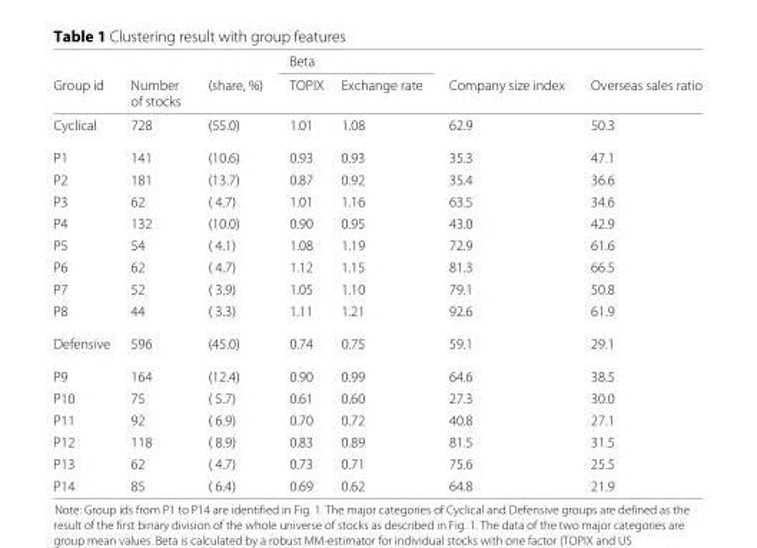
<table><thead><tr><td rowspan="2">Group id</td><td rowspan="2">Number of stocks</td><td rowspan="2">(share, %)</td><td colspan="2">Beta</td><td rowspan="2">Company size index</td><td rowspan="2">Overseas sales ratio</td></tr><tr><td>TOPIX</td><td>Exchange rate</td></tr></thead><tbody><tr><td>Cyclical</td><td>728</td><td>(55.0)</td><td>1.01</td><td>1.08</td><td>62.9</td><td>50.3</td></tr><tr><td>P1</td><td>141</td><td>(10.6)</td><td>0.93</td><td>0.93</td><td>35.3</td><td>47.1</td></tr><tr><td>P2</td><td>181</td><td>(13.7)</td><td>0.87</td><td>0.92</td><td>35.4</td><td>36.6</td></tr><tr><td>P3</td><td>62</td><td>( 4.7)</td><td>1.01</td><td>1.16</td><td>63.5</td><td>34.6</td></tr><tr><td>P4</td><td>132</td><td>(10.0)</td><td>0.90</td><td>0.95</td><td>43.0</td><td>42.9</td></tr><tr><td>P5</td><td>54</td><td>( 4.1)</td><td>1.08</td><td>1.19</td><td>72.9</td><td>61.6</td></tr><tr><td>P6</td><td>62</td><td>( 4.7)</td><td>1.12</td><td>1.15</td><td>81.3</td><td>66.5</td></tr><tr><td>P7</td><td>52</td><td>( 3.9)</td><td>1.05</td><td>1.10</td><td>79.1</td><td>50.8</td></tr><tr><td>P8</td><td>44</td><td>( 3.3)</td><td>1.11</td><td>1.21</td><td>92.6</td><td>61.9</td></tr><tr><td>Defensive</td><td>596</td><td>(45.0)</td><td>0.74</td><td>0.75</td><td>59.1</td><td>29.1</td></tr><tr><td>P9</td><td>164</td><td>(12.4)</td><td>0.90</td><td>0.99</td><td>64.6</td><td>38.5</td></tr><tr><td>P10</td><td>75</td><td>( 5.7)</td><td>0.61</td><td>0.60</td><td>27.3</td><td>30.0</td></tr><tr><td>P11</td><td>92</td><td>( 6.9)</td><td>0.70</td><td>0.72</td><td>40.8</td><td>27.1</td></tr><tr><td>P12</td><td>118</td><td>( 8.9)</td><td>0.83</td><td>0.89</td><td>81.5</td><td>31.5</td></tr><tr><td>P13</td><td>62</td><td>( 4.7)</td><td>0.73</td><td>0.71</td><td>75.6</td><td>25.5</td></tr><tr><td>P14</td><td>85</td><td>( 6.4)</td><td>0.69</td><td>0.62</td><td>64.8</td><td>21.9</td></tr></tbody></table>